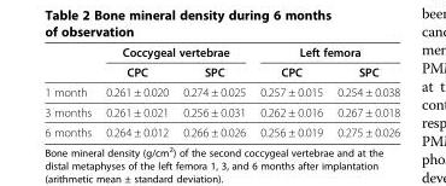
<table><thead><tr><td rowspan="2"></td><td colspan="2">Coccygeal vertebrae</td><td colspan="2">Left femora</td></tr><tr><td>CPC</td><td>SPC</td><td>CPC</td><td>SPC</td></tr></thead><tbody><tr><td>1 month</td><td>0.261 ± 0.020</td><td>0.274 ± 0.025</td><td>0.257 ± 0.015</td><td>0.254 ± 0.038</td></tr><tr><td>3 months</td><td>0.261 ± 0.021</td><td>0.256 ± 0.031</td><td>0.262 ± 0.016</td><td>0.267 ± 0.018</td></tr><tr><td>6 months</td><td>0.264 ± 0.012</td><td>0.266 ± 0.026</td><td>0.256 ± 0.019</td><td>0.275 ± 0.026</td></tr></tbody></table>